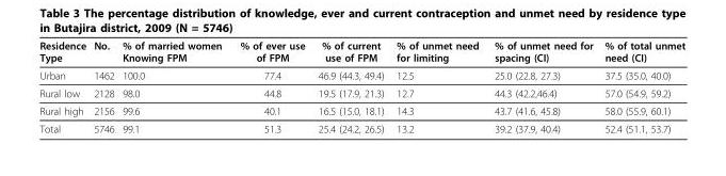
<table><thead><tr><td>Residence Type</td><td>No.</td><td>% of married women Knowing FPM</td><td>% of ever use of FPM</td><td>% of current use of FPM</td><td>% of unmet need for limiting</td><td>% of unmet need for spacing (CI)</td><td>% of total unmet need (CI)</td></tr></thead><tbody><tr><td>Urban</td><td>1462</td><td>100.0</td><td>77.4</td><td>46.9 (44.3, 49.4)</td><td>12.5</td><td>25.0 (22.8, 27.3)</td><td>37.5 (35.0, 40.0)</td></tr><tr><td>Rural low</td><td>2128</td><td>98.0</td><td>44.8</td><td>19.5 (17.9, 21.3)</td><td>12.7</td><td>44.3 (42.2,46.4)</td><td>57.0 (54.9, 59.2)</td></tr><tr><td>Rural high</td><td>2156</td><td>99.6</td><td>40.1</td><td>16.5 (15.0, 18.1)</td><td>14.3</td><td>43.7 (41.6, 45.8)</td><td>58.0 (55.9, 60.1)</td></tr><tr><td>Total</td><td>5746</td><td>99.1</td><td>51.3</td><td>25.4 (24.2, 26.5)</td><td>13.2</td><td>39.2 (37.9, 40.4)</td><td>52.4 (51.1, 53.7)</td></tr></tbody></table>